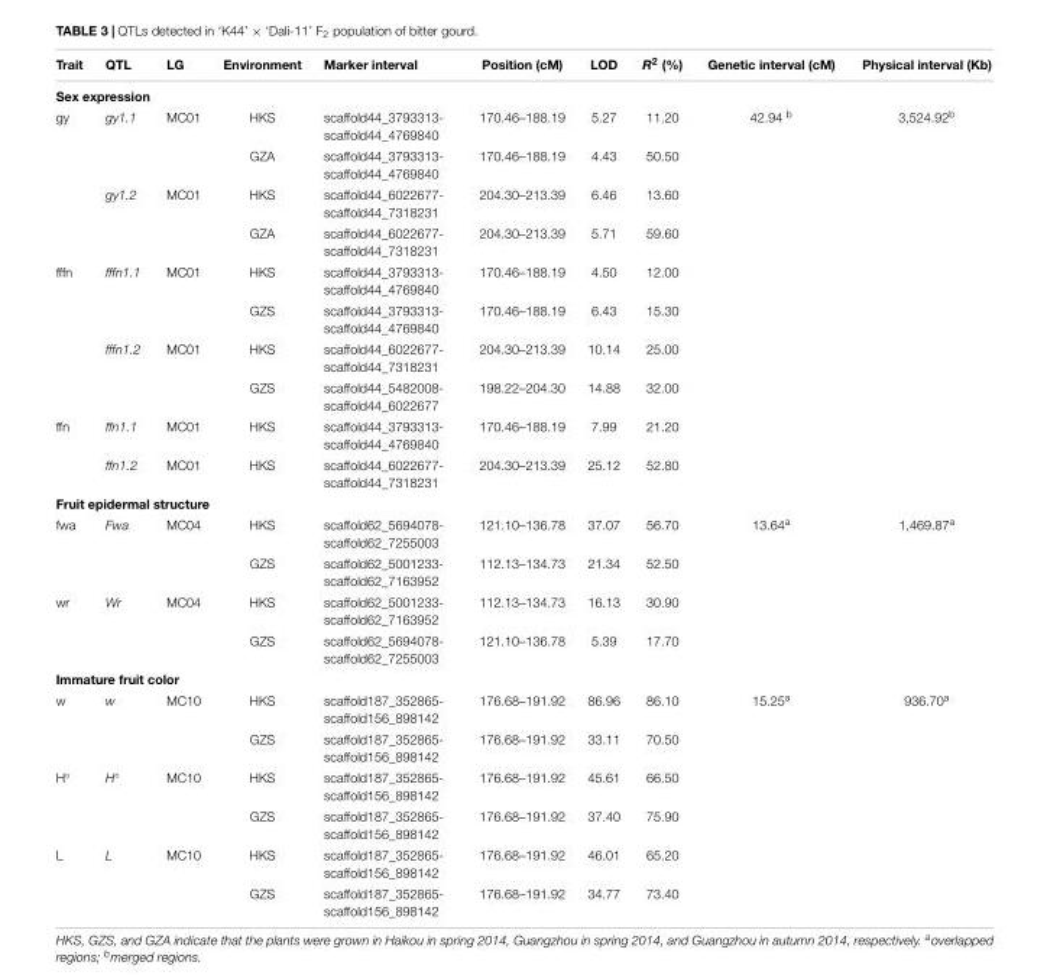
<table><thead><tr><td>Trait</td><td>QTL</td><td>LG</td><td>Environment</td><td>Marker interval</td><td>Position (cM)</td><td>LOD</td><td>R<sup>2</sup> (%)</td><td>Genetic interval (cM)</td><td>Physical interval (Kb)</td></tr></thead><tbody><tr><td colspan="10">Sex expression</td></tr><tr><td rowspan="4">gy</td><td>gy1.1</td><td>MC01</td><td>HKS</td><td>scaffold44_3793313- scaffold44_4769840</td><td>170.46–188.19</td><td>5.27</td><td>11.20</td><td>42.94 <sup>b</sup></td><td>3,524.92<sup>b</sup></td></tr><tr><td></td><td></td><td>GZA</td><td>scaffold44_3793313- scaffold44_4769840</td><td>170.46–188.19</td><td>4.43</td><td>50.50</td><td></td><td></td></tr><tr><td>gy1.2</td><td>MC01</td><td>HKS</td><td>scaffold44_6022677- scaffold44_7318231</td><td>204.30–213.39</td><td>6.46</td><td>13.60</td><td></td><td></td></tr><tr><td></td><td></td><td>GZA</td><td>scaffold44_6022677- scaffold44_7318231</td><td>204.30–213.39</td><td>5.71</td><td>59.60</td><td></td><td></td></tr><tr><td rowspan="4">fffn</td><td>fffn1.1</td><td>MC01</td><td>HKS</td><td>scaffold44_3793313- scaffold44_4769840</td><td>170.46–188.19</td><td>4.50</td><td>12.00</td><td></td><td></td></tr><tr><td></td><td></td><td>GZS</td><td>scaffold44_3793313- scaffold44_4769840</td><td>170.46–188.19</td><td>6.43</td><td>15.30</td><td></td><td></td></tr><tr><td>fffn1.2</td><td>MC01</td><td>HKS</td><td>scaffold44_6022677- scaffold44_7318231</td><td>204.30–213.39</td><td>10.14</td><td>25.00</td><td></td><td></td></tr><tr><td></td><td></td><td>GZS</td><td>scaffold44_5482008- scaffold44_6022677</td><td>198.22–204.30</td><td>14.88</td><td>32.00</td><td></td><td></td></tr><tr><td rowspan="2">ffn</td><td>ffn1.1</td><td>MC01</td><td>HKS</td><td>scaffold44_3793313- scaffold44_4769840</td><td>170.46–188.19</td><td>7.99</td><td>21.20</td><td></td><td></td></tr><tr><td>ffn1.2</td><td>MC01</td><td>HKS</td><td>scaffold44_6022677- scaffold44_7318231</td><td>204.30–213.39</td><td>25.12</td><td>52.80</td><td></td><td></td></tr><tr><td colspan="10">Fruit epidermal structure</td></tr><tr><td rowspan="2">fwa</td><td>Fwa</td><td>MC04</td><td>HKS</td><td>scaffold62_5694078- scaffold62_7255003</td><td>121.10–136.78</td><td>37.07</td><td>56.70</td><td>13.64<sup>a</sup></td><td>1,469.87<sup>a</sup></td></tr><tr><td></td><td></td><td>GZS</td><td>scaffold62_5001233- scaffold62_7163952</td><td>112.13–134.73</td><td>21.34</td><td>52.50</td><td></td><td></td></tr><tr><td rowspan="2">wr</td><td>Wr</td><td>MC04</td><td>HKS</td><td>scaffold62_5001233- scaffold62_7163952</td><td>112.13–134.73</td><td>16.13</td><td>30.90</td><td></td><td></td></tr><tr><td></td><td></td><td>GZS</td><td>scaffold62_5694078- scaffold62_7255003</td><td>121.10–136.78</td><td>5.39</td><td>17.70</td><td></td><td></td></tr><tr><td colspan="10">Immature fruit color</td></tr><tr><td rowspan="2">w</td><td>w</td><td>MC10</td><td>HKS</td><td>scaffold187_352865- scaffold156_898142</td><td>176.68–191.92</td><td>86.96</td><td>86.10</td><td>15.25<sup>a</sup></td><td>936.70<sup>a</sup></td></tr><tr><td></td><td></td><td>GZS</td><td>scaffold187_352865- scaffold156_898142</td><td>176.68–191.92</td><td>33.11</td><td>70.50</td><td></td><td></td></tr><tr><td rowspan="2">H◦</td><td>H◦</td><td>MC10</td><td>HKS</td><td>scaffold187_352865- scaffold156_898142</td><td>176.68–191.92</td><td>45.61</td><td>66.50</td><td></td><td></td></tr><tr><td></td><td></td><td>GZS</td><td>scaffold187_352865- scaffold156_898142</td><td>176.68–191.92</td><td>37.40</td><td>75.90</td><td></td><td></td></tr><tr><td rowspan="2">L</td><td>L</td><td>MC10</td><td>HKS</td><td>scaffold187_352865- scaffold156_898142</td><td>176.68–191.92</td><td>46.01</td><td>65.20</td><td></td><td></td></tr><tr><td></td><td></td><td>GZS</td><td>scaffold187_352865- scaffold156_898142</td><td>176.68–191.92</td><td>34.77</td><td>73.40</td><td></td><td></td></tr></tbody></table>